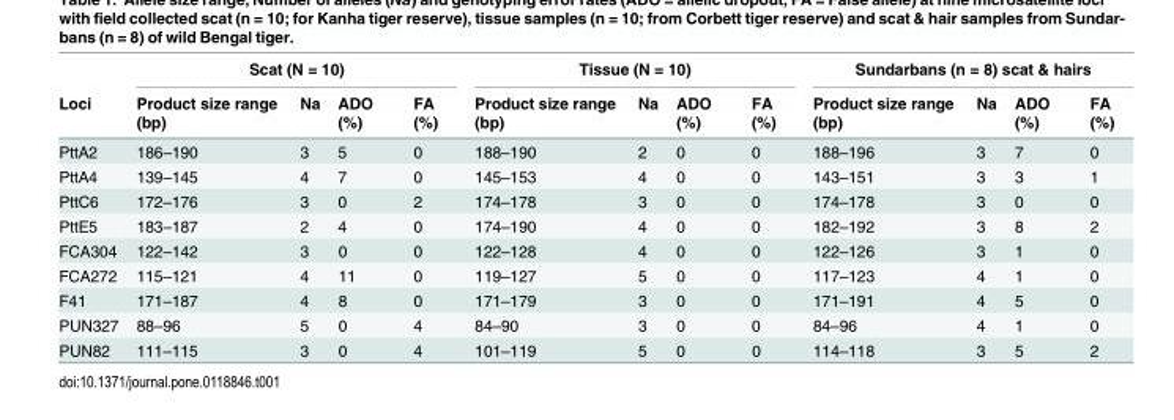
<table><thead><tr><td rowspan="2">Loci</td><td colspan="4">Scat (N = 10)</td><td colspan="4">Tissue (N = 10)</td><td colspan="4">Sundarbans (n = 8) scat &amp; hairs</td></tr><tr><td>Product size range (bp)</td><td>Na</td><td>ADO (%)</td><td>FA (%)</td><td>Product size range (bp)</td><td>Na</td><td>ADO (%)</td><td>FA (%)</td><td>Product size range (bp)</td><td>Na</td><td>ADO (%)</td><td>FA (%)</td></tr></thead><tbody><tr><td>PttA2</td><td>186–190</td><td>3</td><td>5</td><td>0</td><td>188–190</td><td>2</td><td>0</td><td>0</td><td>188–196</td><td>3</td><td>7</td><td>0</td></tr><tr><td>PttA4</td><td>139–145</td><td>4</td><td>7</td><td>0</td><td>145–153</td><td>4</td><td>0</td><td>0</td><td>143–151</td><td>3</td><td>3</td><td>1</td></tr><tr><td>PttC6</td><td>172–176</td><td>3</td><td>0</td><td>2</td><td>174–178</td><td>3</td><td>0</td><td>0</td><td>174–178</td><td>3</td><td>0</td><td>0</td></tr><tr><td>PttE5</td><td>183–187</td><td>2</td><td>4</td><td>0</td><td>174–190</td><td>4</td><td>0</td><td>0</td><td>182–192</td><td>3</td><td>8</td><td>2</td></tr><tr><td>FCA304</td><td>122–142</td><td>3</td><td>0</td><td>0</td><td>122–128</td><td>4</td><td>0</td><td>0</td><td>122–126</td><td>3</td><td>1</td><td>0</td></tr><tr><td>FCA272</td><td>115–121</td><td>4</td><td>11</td><td>0</td><td>119–127</td><td>5</td><td>0</td><td>0</td><td>117–123</td><td>4</td><td>1</td><td>0</td></tr><tr><td>F41</td><td>171–187</td><td>4</td><td>8</td><td>0</td><td>171–179</td><td>3</td><td>0</td><td>0</td><td>171–191</td><td>4</td><td>5</td><td>0</td></tr><tr><td>PUN327</td><td>88–96</td><td>5</td><td>0</td><td>4</td><td>84–90</td><td>3</td><td>0</td><td>0</td><td>84–96</td><td>4</td><td>1</td><td>0</td></tr><tr><td>PUN82</td><td>111–115</td><td>3</td><td>0</td><td>4</td><td>101–119</td><td>5</td><td>0</td><td>0</td><td>114–118</td><td>3</td><td>5</td><td>2</td></tr></tbody></table>